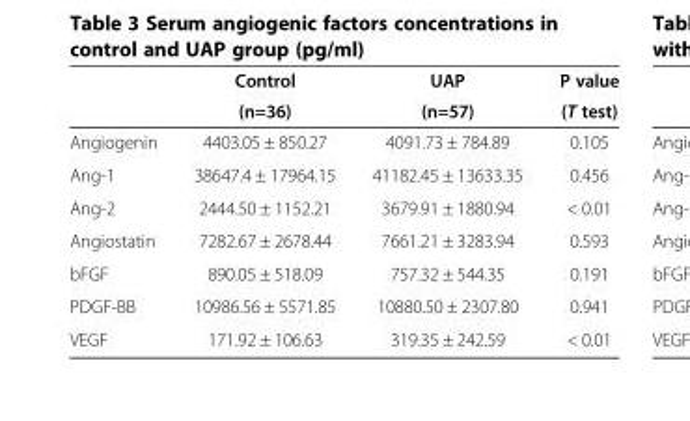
<table><thead><tr><td rowspan="2"></td><td rowspan="2">Control (n=36)</td><td rowspan="2">UAP (n=57)</td><td rowspan="2">P value (T test)</td></tr><tr></tr></thead><tbody><tr><td>Angiogenin</td><td>4403.05 ± 850.27</td><td>4091.73 ± 784.89</td><td>0.105</td></tr><tr><td>Ang-1</td><td>38647.4 ± 17964.15</td><td>41182.45 ± 13633.35</td><td>0.456</td></tr><tr><td>Ang-2</td><td>2444.50 ± 1152.21</td><td>3679.91 ± 1880.94</td><td>&lt; 0.01</td></tr><tr><td>Angiostatin</td><td>7282.67 ± 2678.44</td><td>7661.21 ± 3283.94</td><td>0.593</td></tr><tr><td>bFGF</td><td>890.05 ± 518.09</td><td>757.32 ± 544.35</td><td>0.191</td></tr><tr><td>PDGF-BB</td><td>10986.56 ± 5571.85</td><td>10880.50 ± 2307.80</td><td>0.941</td></tr><tr><td>VEGF</td><td>171.92 ± 106.63</td><td>319.35 ± 242.59</td><td>&lt; 0.01</td></tr></tbody></table>